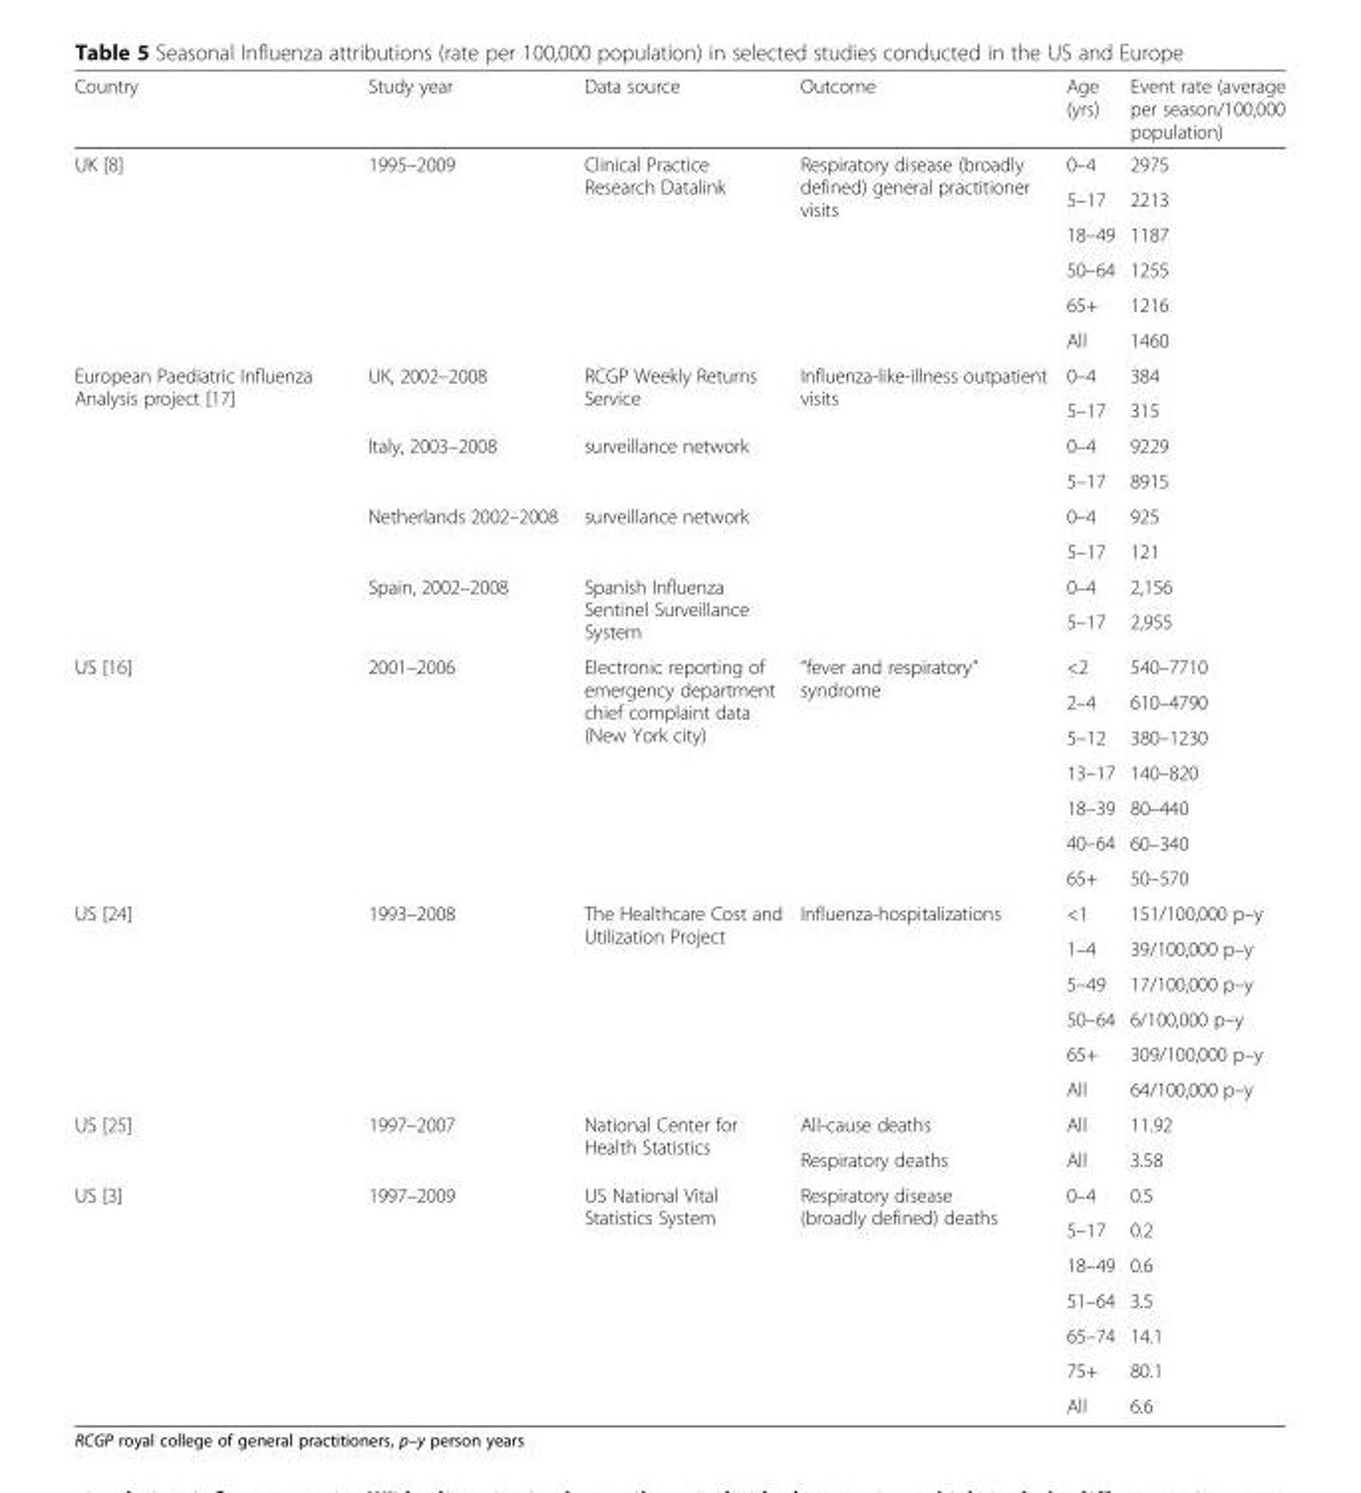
<table><thead><tr><td>Country</td><td>Study year</td><td>Data source</td><td>Outcome</td><td>Age (yrs)</td><td>Event rate (average per season/100,000 population)</td></tr></thead><tbody><tr><td rowspan="6">UK [8]</td><td rowspan="6">1995–2009</td><td rowspan="6">Clinical Practice Research Datalink</td><td rowspan="6">Respiratory disease (broadly defined) general practitioner visits</td><td>0–4</td><td>2975</td></tr><tr><td>5–17</td><td>2213</td></tr><tr><td>18–49</td><td>1187</td></tr><tr><td>50–64</td><td>1255</td></tr><tr><td>65+</td><td>1216</td></tr><tr><td>All</td><td>1460</td></tr><tr><td rowspan="8">European Paediatric Influenza Analysis project [17]</td><td rowspan="2">UK, 2002–2008</td><td rowspan="2">RCGP Weekly Returns Service</td><td rowspan="8">Influenza-like-illness outpatient visits</td><td>0–4</td><td>384</td></tr><tr><td>5–17</td><td>315</td></tr><tr><td rowspan="2">Italy, 2003–2008</td><td rowspan="2">surveillance network</td><td>0–4</td><td>9229</td></tr><tr><td>5–17</td><td>8915</td></tr><tr><td rowspan="2">Netherlands 2002–2008</td><td rowspan="2">surveillance network</td><td>0–4</td><td>925</td></tr><tr><td>5–17</td><td>121</td></tr><tr><td rowspan="2">Spain, 2002–2008</td><td rowspan="2">Spanish Influenza Sentinel Surveillance System</td><td>0–4</td><td>2,156</td></tr><tr><td>5–17</td><td>2,955</td></tr><tr><td rowspan="7">US [16]</td><td rowspan="7">2001–2006</td><td rowspan="7">Electronic reporting of emergency department chief complaint data (New York city)</td><td rowspan="7">“fever and respiratory” syndrome</td><td>&lt;2</td><td>540–7710</td></tr><tr><td>2–4</td><td>610–4790</td></tr><tr><td>5–12</td><td>380–1230</td></tr><tr><td>13–17</td><td>140–820</td></tr><tr><td>18–39</td><td>80–440</td></tr><tr><td>40–64</td><td>60–340</td></tr><tr><td>65+</td><td>50–570</td></tr><tr><td rowspan="6">US [24]</td><td rowspan="6">1993–2008</td><td rowspan="6">The Healthcare Cost and Utilization Project</td><td rowspan="6">Influenza-hospitalizations</td><td>&lt;1</td><td>151/100,000 p–y</td></tr><tr><td>1–4</td><td>39/100,000 p–y</td></tr><tr><td>5–49</td><td>17/100,000 p–y</td></tr><tr><td>50–64</td><td>6/100,000 p–y</td></tr><tr><td>65+</td><td>309/100,000 p–y</td></tr><tr><td>All</td><td>64/100,000 p–y</td></tr><tr><td rowspan="2">US [25]</td><td rowspan="2">1997–2007</td><td rowspan="2">National Center for Health Statistics</td><td>All-cause deaths</td><td>All</td><td>11.92</td></tr><tr><td>Respiratory deaths</td><td>All</td><td>3.58</td></tr><tr><td rowspan="7">US [3]</td><td rowspan="7">1997–2009</td><td rowspan="7">US National Vital Statistics System</td><td rowspan="7">Respiratory disease (broadly defined) deaths</td><td>0–4</td><td>0.5</td></tr><tr><td>5–17</td><td>0.2</td></tr><tr><td>18–49</td><td>0.6</td></tr><tr><td>51–64</td><td>3.5</td></tr><tr><td>65–74</td><td>14.1</td></tr><tr><td>75+</td><td>80.1</td></tr><tr><td>All</td><td>6.6</td></tr></tbody></table>